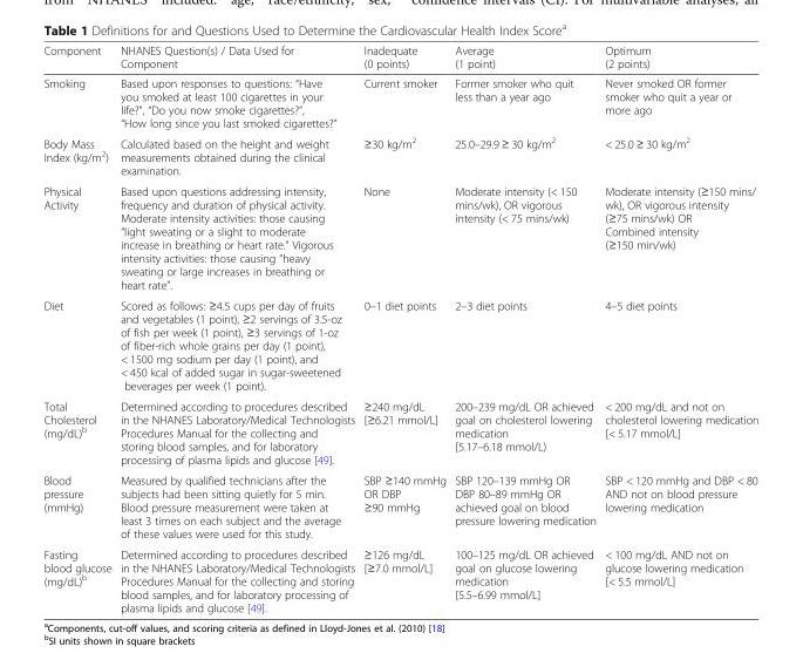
<table><thead><tr><td>Component</td><td>NHANES Question(s) / Data Used for Component</td><td>Inadequate (0 points)</td><td>Average (1 point)</td><td>Optimum (2 points)</td></tr></thead><tbody><tr><td>Smoking</td><td>Based upon responses to questions: “Have you smoked at least 100 cigarettes in your life?”, “Do you now smoke cigarettes?”, “How long since you last smoked cigarettes?”</td><td>Current smoker</td><td>Former smoker who quit less than a year ago</td><td>Never smoked OR former smoker who quit a year or more ago</td></tr><tr><td>Body Mass Index (kg/m<sup>2</sup>)</td><td>Calculated based on the height and weight measurements obtained during the clinical examination.</td><td>≥30 kg/m<sup>2</sup></td><td>25.0–29.9 ≥ 30 kg/m<sup>2</sup></td><td>&lt; 25.0 ≥ 30 kg/m<sup>2</sup></td></tr><tr><td>Physical Activity</td><td>Based upon questions addressing intensity, frequency and duration of physical activity. Moderate intensity activities: those causing “light sweating or a slight to moderate increase in breathing or heart rate.” Vigorous intensity activities: those causing “heavy sweating or large increases in breathing or heart rate”.</td><td>None</td><td>Moderate intensity (&lt; 150 mins/wk), OR vigorous intensity (&lt; 75 mins/wk)</td><td>Moderate intensity (≥150 mins/ wk), OR vigorous intensity (≥75 mins/wk) OR Combined intensity (≥150 min/wk)</td></tr><tr><td>Diet</td><td>Scored as follows: ≥4.5 cups per day of fruits and vegetables (1 point), ≥2 servings of 3.5-oz of fish per week (1 point), ≥3 servings of 1-oz of fiber-rich whole grains per day (1 point), &lt; 1500 mg sodium per day (1 point), and &lt; 450 kcal of added sugar in sugar-sweetened beverages per week (1 point).</td><td>0–1 diet points</td><td>2–3 diet points</td><td>4–5 diet points</td></tr><tr><td>Total Cholesterol (mg/dL)<sup>b</sup></td><td>Determined according to procedures described in the NHANES Laboratory/Medical Technologists Procedures Manual for the collecting and storing blood samples, and for laboratory processing of plasma lipids and glucose [49].</td><td>≥240 mg/dL [≥6.21 mmol/L]</td><td>200–239 mg/dL OR achieved goal on cholesterol lowering medication [5.17–6.18 mmol/L)</td><td>&lt; 200 mg/dL and not on cholesterol lowering medication [&lt; 5.17 mmol/L]</td></tr><tr><td>Blood pressure (mmHg)</td><td>Measured by qualified technicians after the subjects had been sitting quietly for 5 min. Blood pressure measurement were taken at least 3 times on each subject and the average of these values were used for this study.</td><td>SBP ≥140 mmHg OR DBP ≥90 mmHg</td><td>SBP 120–139 mmHg OR DBP 80–89 mmHg OR achieved goal on blood pressure lowering medication</td><td>SBP &lt; 120 mmHg and DBP &lt; 80 AND not on blood pressure lowering medication</td></tr><tr><td>Fasting blood glucose (mg/dL)<sup>b</sup></td><td>Determined according to procedures described in the NHANES Laboratory/Medical Technologists Procedures Manual for the collecting and storing blood samples, and for laboratory processing of plasma lipids and glucose [49].</td><td>≥126 mg/dL [≥7.0 mmol/L]</td><td>100–125 mg/dL OR achieved goal on glucose lowering medication [5.5–6.99 mmol/L]</td><td>&lt; 100 mg/dL AND not on glucose lowering medication [&lt; 5.5 mmol/L]</td></tr></tbody></table>